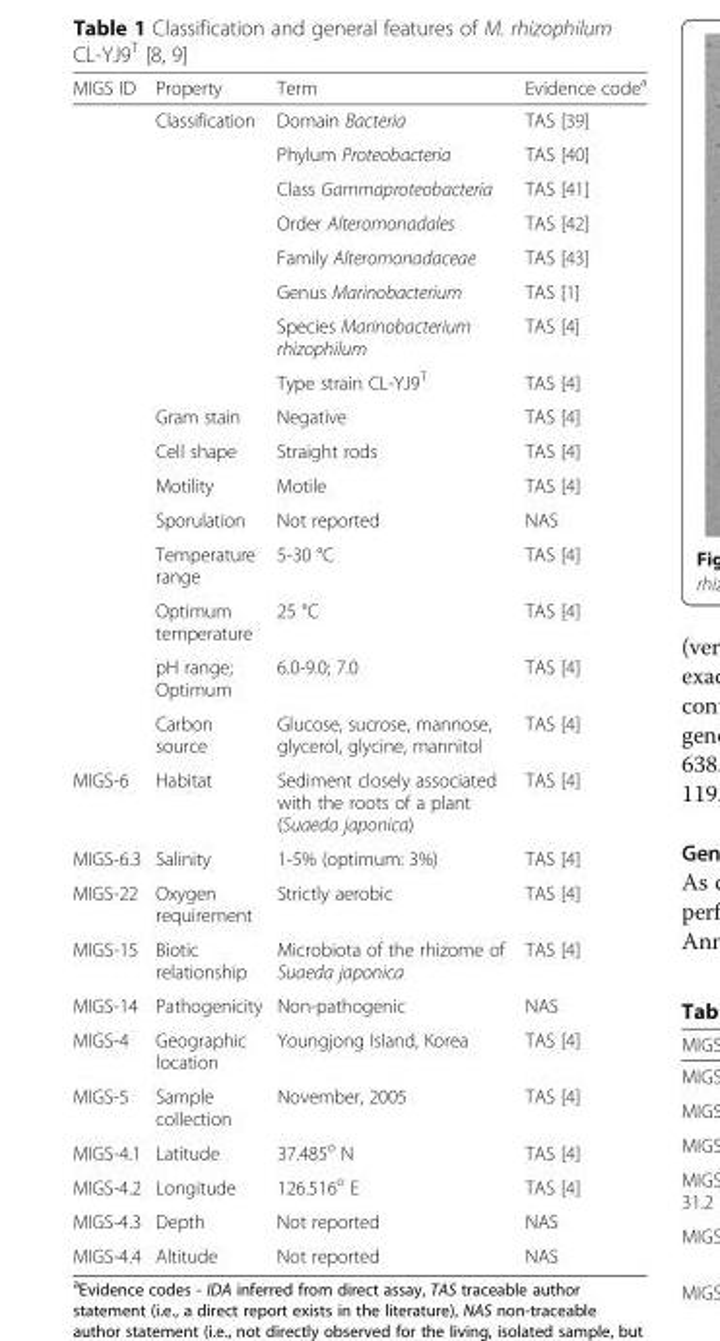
<table><thead><tr><td>MIGS ID</td><td>Property</td><td>Term</td><td>Evidence code<sup>a</sup></td></tr></thead><tbody><tr><td></td><td>Classification</td><td>Domain Bacteria</td><td>TAS [39]</td></tr><tr><td></td><td></td><td>Phylum Proteobacteria</td><td>TAS [40]</td></tr><tr><td></td><td></td><td>Class Gammaproteobacteria</td><td>TAS [41]</td></tr><tr><td></td><td></td><td>Order Alteromonadales</td><td>TAS [42]</td></tr><tr><td></td><td></td><td>Family Alteromonadaceae</td><td>TAS [43]</td></tr><tr><td></td><td></td><td>Genus Marinobacterium</td><td>TAS [1]</td></tr><tr><td></td><td></td><td>Species Marinobacterium rhizophilum</td><td>TAS [4]</td></tr><tr><td></td><td></td><td>Type strain CL-YJ9<sup>T</sup></td><td>TAS [4]</td></tr><tr><td></td><td>Gram stain</td><td>Negative</td><td>TAS [4]</td></tr><tr><td></td><td>Cell shape</td><td>Straight rods</td><td>TAS [4]</td></tr><tr><td></td><td>Motility</td><td>Motile</td><td>TAS [4]</td></tr><tr><td></td><td>Sporulation</td><td>Not reported</td><td>NAS</td></tr><tr><td></td><td>Temperature range</td><td>5-30 °C</td><td>TAS [4]</td></tr><tr><td></td><td>Optimum temperature</td><td>25 °C</td><td>TAS [4]</td></tr><tr><td></td><td>pH range; Optimum</td><td>6.0-9.0; 7.0</td><td>TAS [4]</td></tr><tr><td></td><td>Carbon source</td><td>Glucose, sucrose, mannose, glycerol, glycine, mannitol</td><td>TAS [4]</td></tr><tr><td>MIGS-6</td><td>Habitat</td><td>Sediment closely associated with the roots of a plant (Suaeda japonica)</td><td>TAS [4]</td></tr><tr><td>MIGS-6.3</td><td>Salinity</td><td>1-5% (optimum: 3%)</td><td>TAS [4]</td></tr><tr><td>MIGS-22</td><td>Oxygen requirement</td><td>Strictly aerobic</td><td>TAS [4]</td></tr><tr><td>MIGS-15</td><td>Biotic relationship</td><td>Microbiota of the rhizome of Suaeda japonica</td><td>TAS [4]</td></tr><tr><td>MIGS-14</td><td>Pathogenicity</td><td>Non-pathogenic</td><td>NAS</td></tr><tr><td>MIGS-4</td><td>Geographic location</td><td>Youngjong Island, Korea</td><td>TAS [4]</td></tr><tr><td>MIGS-5</td><td>Sample collection</td><td>November, 2005</td><td>TAS [4]</td></tr><tr><td>MIGS-4.1</td><td>Latitude</td><td>37.485<sup>o</sup> N</td><td>TAS [4]</td></tr><tr><td>MIGS-4.2</td><td>Longitude</td><td>126.516<sup>o</sup> E</td><td>TAS [4]</td></tr><tr><td>MIGS-4.3</td><td>Depth</td><td>Not reported</td><td>NAS</td></tr><tr><td>MIGS-4.4</td><td>Altitude</td><td>Not reported</td><td>NAS</td></tr></tbody></table>